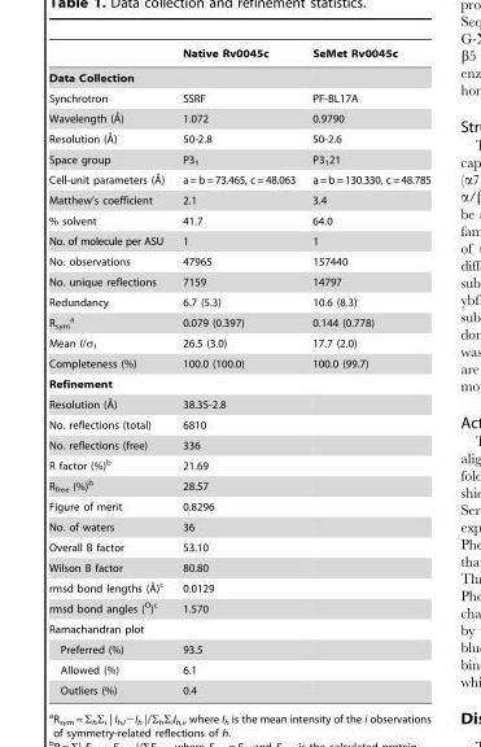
<table><thead><tr><td></td><td>Native Rv0045c</td><td>SeMet Rv0045c</td></tr></thead><tbody><tr><td colspan="3">Data Collection</td></tr><tr><td>Synchrotron</td><td>SSRF</td><td>PF-BL17A</td></tr><tr><td>Wavelength (A˚)</td><td>1.072</td><td>0.9790</td></tr><tr><td>Resolution (A˚)</td><td>50-2.8</td><td>50-2.6</td></tr><tr><td>Space group</td><td>P3<sub>1</sub></td><td>P3<sub>1</sub>21</td></tr><tr><td>Cell-unit parameters (A˚)</td><td>a=b=73.465, c=48.063</td><td>a=b=130.330, c=48.785</td></tr><tr><td>Matthew’s coefficient</td><td>2.1</td><td>3.4</td></tr><tr><td>% solvent</td><td>41.7</td><td>64.0</td></tr><tr><td>No. of molecule per ASU</td><td>1</td><td>1</td></tr><tr><td>No. observations</td><td>47965</td><td>157440</td></tr><tr><td>No. unique reflections</td><td>7159</td><td>14797</td></tr><tr><td>Redundancy</td><td>6.7 (5.3)</td><td>10.6 (8.3)</td></tr><tr><td>R<sub>sym</sub> a</td><td>0.079 (0.397)</td><td>0.144 (0.778)</td></tr><tr><td>Mean I/σ<sub>I</sub></td><td>26.5 (3.0)</td><td>17.7 (2.0)</td></tr><tr><td>Completeness (%)</td><td>100.0 (100.0)</td><td>100.0 (99.7)</td></tr><tr><td colspan="3">Refinement</td></tr><tr><td>Resolution (A˚)</td><td>38.35-2.8</td><td></td></tr><tr><td>No. reflections (total)</td><td>6810</td><td></td></tr><tr><td>No. reflections (free)</td><td>336</td><td></td></tr><tr><td>R factor (%)<sup>b</sup></td><td>21.69</td><td></td></tr><tr><td>R<sub>free</sub> (%)<sup>b</sup></td><td>28.57</td><td></td></tr><tr><td>Figure of merit</td><td>0.8296</td><td></td></tr><tr><td>No. of waters</td><td>36</td><td></td></tr><tr><td>Overall B factor</td><td>53.10</td><td></td></tr><tr><td>Wilson B factor</td><td>80.80</td><td></td></tr><tr><td>rmsd bond lengths (A˚)c</td><td>0.0129</td><td></td></tr><tr><td>rmsd bond angles (<sup>O</sup>)<sup>c</sup></td><td>1.570</td><td></td></tr><tr><td colspan="3">Ramachandran plot</td></tr><tr><td>Preferred (%)</td><td>93.5</td><td></td></tr><tr><td>Allowed (%)</td><td>6.1</td><td></td></tr><tr><td>Outliers (%)</td><td>0.4</td><td></td></tr></tbody></table>